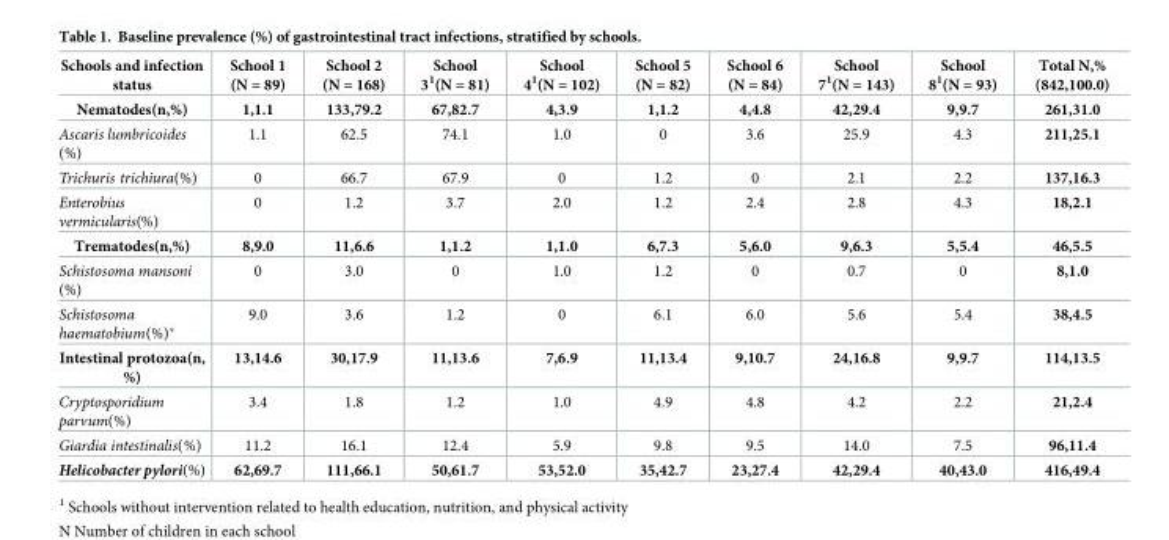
<table><thead><tr><td>Schools and infection status</td><td>School 1 (N = 89)</td><td>School 2 (N = 168)</td><td>School 3<sup>1</sup>(N = 81)</td><td>School 4<sup>1</sup>(N = 102)</td><td>School 5 (N = 82)</td><td>School 6 (N = 84)</td><td>School 7<sup>1</sup>(N = 143)</td><td>School 8<sup>1</sup>(N = 93)</td><td>Total N,% (842,100.0)</td></tr></thead><tbody><tr><td>Nematodes(n,%)</td><td>1,1.1</td><td>133,79.2</td><td>67,82.7</td><td>4,3.9</td><td>1,1.2</td><td>4,4.8</td><td>42,29.4</td><td>9,9.7</td><td>261,31.0</td></tr><tr><td>Ascaris lumbricoides (%)</td><td>1.1</td><td>62.5</td><td>74.1</td><td>1.0</td><td>0</td><td>3.6</td><td>25.9</td><td>4.3</td><td>211,25.1</td></tr><tr><td>Trichuris trichiura(%)</td><td>0</td><td>66.7</td><td>67.9</td><td>0</td><td>1.2</td><td>0</td><td>2.1</td><td>2.2</td><td>137,16.3</td></tr><tr><td>Enterobius vermicularis(%)</td><td>0</td><td>1.2</td><td>3.7</td><td>2.0</td><td>1.2</td><td>2.4</td><td>2.8</td><td>4.3</td><td>18,2.1</td></tr><tr><td>Trematodes(n,%)</td><td>8,9.0</td><td>11,6.6</td><td>1,1.2</td><td>1,1.0</td><td>6,7.3</td><td>5,6.0</td><td>9,6.3</td><td>5,5.4</td><td>46,5.5</td></tr><tr><td>Schistosoma mansoni (%)</td><td>0</td><td>3.0</td><td>0</td><td>1.0</td><td>1.2</td><td>0</td><td>0.7</td><td>0</td><td>8,1.0</td></tr><tr><td>Schistosoma haematobium(%)*</td><td>9.0</td><td>3.6</td><td>1.2</td><td>0</td><td>6.1</td><td>6.0</td><td>5.6</td><td>5.4</td><td>38,4.5</td></tr><tr><td>Intestinal protozoa(n, %)</td><td>13,14.6</td><td>30,17.9</td><td>11,13.6</td><td>7,6.9</td><td>11,13.4</td><td>9,10.7</td><td>24,16.8</td><td>9,9.7</td><td>114,13.5</td></tr><tr><td>Cryptosporidium parvum(%)</td><td>3.4</td><td>1.8</td><td>1.2</td><td>1.0</td><td>4.9</td><td>4.8</td><td>4.2</td><td>2.2</td><td>21,2.4</td></tr><tr><td>Giardia intestinalis(%)</td><td>11.2</td><td>16.1</td><td>12.4</td><td>5.9</td><td>9.8</td><td>9.5</td><td>14.0</td><td>7.5</td><td>96,11.4</td></tr><tr><td>Helicobacter pylori(%)</td><td>62,69.7</td><td>111,66.1</td><td>50,61.7</td><td>53,52.0</td><td>35,42.7</td><td>23,27.4</td><td>42,29.4</td><td>40,43.0</td><td>416,49.4</td></tr></tbody></table>